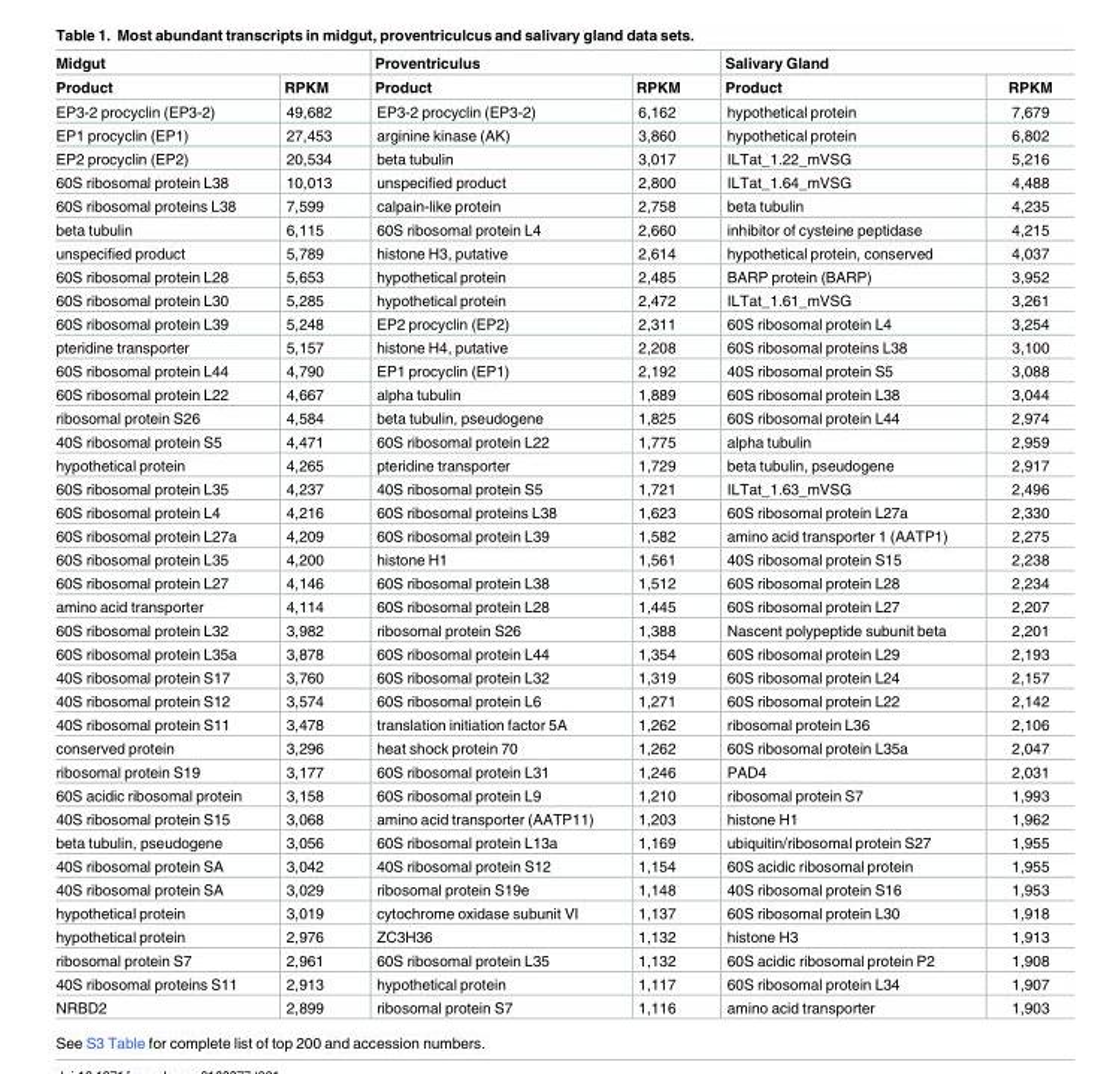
<table><thead><tr><td colspan="2">Midgut</td><td colspan="2">Proventriculus</td><td colspan="2">Salivary Gland</td></tr><tr><td>Product</td><td>RPKM</td><td>Product</td><td>RPKM</td><td>Product</td><td>RPKM</td></tr></thead><tbody><tr><td>EP3-2 procyclin (EP3-2)</td><td>49,682</td><td>EP3-2 procyclin (EP3-2)</td><td>6,162</td><td>hypothetical protein</td><td>7,679</td></tr><tr><td>EP1 procyclin (EP1)</td><td>27,453</td><td>arginine kinase (AK)</td><td>3,860</td><td>hypothetical protein</td><td>6,802</td></tr><tr><td>EP2 procyclin (EP2)</td><td>20,534</td><td>beta tubulin</td><td>3,017</td><td>ILTat_1.22_mVSG</td><td>5,216</td></tr><tr><td>60S ribosomal protein L38</td><td>10,013</td><td>unspecified product</td><td>2,800</td><td>ILTat_1.64_mVSG</td><td>4,488</td></tr><tr><td>60S ribosomal proteins L38</td><td>7,599</td><td>calpain-like protein</td><td>2,758</td><td>beta tubulin</td><td>4,235</td></tr><tr><td>beta tubulin</td><td>6,115</td><td>60S ribosomal protein L4</td><td>2,660</td><td>inhibitor of cysteine peptidase</td><td>4,215</td></tr><tr><td>unspecified product</td><td>5,789</td><td>histone H3, putative</td><td>2,614</td><td>hypothetical protein, conserved</td><td>4,037</td></tr><tr><td>60S ribosomal protein L28</td><td>5,653</td><td>hypothetical protein</td><td>2,485</td><td>BARP protein (BARP)</td><td>3,952</td></tr><tr><td>60S ribosomal protein L30</td><td>5,285</td><td>hypothetical protein</td><td>2,472</td><td>ILTat_1.61_mVSG</td><td>3,261</td></tr><tr><td>60S ribosomal protein L39</td><td>5,248</td><td>EP2 procyclin (EP2)</td><td>2,311</td><td>60S ribosomal protein L4</td><td>3,254</td></tr><tr><td>pteridine transporter</td><td>5,157</td><td>histone H4, putative</td><td>2,208</td><td>60S ribosomal proteins L38</td><td>3,100</td></tr><tr><td>60S ribosomal protein L44</td><td>4,790</td><td>EP1 procyclin (EP1)</td><td>2,192</td><td>40S ribosomal protein S5</td><td>3,088</td></tr><tr><td>60S ribosomal protein L22</td><td>4,667</td><td>alpha tubulin</td><td>1,889</td><td>60S ribosomal protein L38</td><td>3,044</td></tr><tr><td>ribosomal protein S26</td><td>4,584</td><td>beta tubulin, pseudogene</td><td>1,825</td><td>60S ribosomal protein L44</td><td>2,974</td></tr><tr><td>40S ribosomal protein S5</td><td>4,471</td><td>60S ribosomal protein L22</td><td>1,775</td><td>alpha tubulin</td><td>2,959</td></tr><tr><td>hypothetical protein</td><td>4,265</td><td>pteridine transporter</td><td>1,729</td><td>beta tubulin, pseudogene</td><td>2,917</td></tr><tr><td>60S ribosomal protein L35</td><td>4,237</td><td>40S ribosomal protein S5</td><td>1,721</td><td>ILTat_1.63_mVSG</td><td>2,496</td></tr><tr><td>60S ribosomal protein L4</td><td>4,216</td><td>60S ribosomal proteins L38</td><td>1,623</td><td>60S ribosomal protein L27a</td><td>2,330</td></tr><tr><td>60S ribosomal protein L27a</td><td>4,209</td><td>60S ribosomal protein L39</td><td>1,582</td><td>amino acid transporter 1 (AATP1)</td><td>2,275</td></tr><tr><td>60S ribosomal protein L35</td><td>4,200</td><td>histone H1</td><td>1,561</td><td>40S ribosomal protein S15</td><td>2,238</td></tr><tr><td>60S ribosomal protein L27</td><td>4,146</td><td>60S ribosomal protein L38</td><td>1,512</td><td>60S ribosomal protein L28</td><td>2,234</td></tr><tr><td>amino acid transporter</td><td>4,114</td><td>60S ribosomal protein L28</td><td>1,445</td><td>60S ribosomal protein L27</td><td>2,207</td></tr><tr><td>60S ribosomal protein L32</td><td>3,982</td><td>ribosomal protein S26</td><td>1,388</td><td>Nascent polypeptide subunit beta</td><td>2,201</td></tr><tr><td>60S ribosomal protein L35a</td><td>3,878</td><td>60S ribosomal protein L44</td><td>1,354</td><td>60S ribosomal protein L29</td><td>2,193</td></tr><tr><td>40S ribosomal protein S17</td><td>3,760</td><td>60S ribosomal protein L32</td><td>1,319</td><td>60S ribosomal protein L24</td><td>2,157</td></tr><tr><td>40S ribosomal protein S12</td><td>3,574</td><td>60S ribosomal protein L6</td><td>1,271</td><td>60S ribosomal protein L22</td><td>2,142</td></tr><tr><td>40S ribosomal protein S11</td><td>3,478</td><td>translation initiation factor 5A</td><td>1,262</td><td>ribosomal protein L36</td><td>2,106</td></tr><tr><td>conserved protein</td><td>3,296</td><td>heat shock protein 70</td><td>1,262</td><td>60S ribosomal protein L35a</td><td>2,047</td></tr><tr><td>ribosomal protein S19</td><td>3,177</td><td>60S ribosomal protein L31</td><td>1,246</td><td>PAD4</td><td>2,031</td></tr><tr><td>60S acidic ribosomal protein</td><td>3,158</td><td>60S ribosomal protein L9</td><td>1,210</td><td>ribosomal protein S7</td><td>1,993</td></tr><tr><td>40S ribosomal protein S15</td><td>3,068</td><td>amino acid transporter (AATP11)</td><td>1,203</td><td>histone H1</td><td>1,962</td></tr><tr><td>beta tubulin, pseudogene</td><td>3,056</td><td>60S ribosomal protein L13a</td><td>1,169</td><td>ubiquitin/ribosomal protein S27</td><td>1,955</td></tr><tr><td>40S ribosomal protein SA</td><td>3,042</td><td>40S ribosomal protein S12</td><td>1,154</td><td>60S acidic ribosomal protein</td><td>1,955</td></tr><tr><td>40S ribosomal protein SA</td><td>3,029</td><td>ribosomal protein S19e</td><td>1,148</td><td>40S ribosomal protein S16</td><td>1,953</td></tr><tr><td>hypothetical protein</td><td>3,019</td><td>cytochrome oxidase subunit VI</td><td>1,137</td><td>60S ribosomal protein L30</td><td>1,918</td></tr><tr><td>hypothetical protein</td><td>2,976</td><td>ZC3H36</td><td>1,132</td><td>histone H3</td><td>1,913</td></tr><tr><td>ribosomal protein S7</td><td>2,961</td><td>60S ribosomal protein L35</td><td>1,132</td><td>60S acidic ribosomal protein P2</td><td>1,908</td></tr><tr><td>40S ribosomal proteins S11</td><td>2,913</td><td>hypothetical protein</td><td>1,117</td><td>60S ribosomal protein L34</td><td>1,907</td></tr><tr><td>NRBD2</td><td>2,899</td><td>ribosomal protein S7</td><td>1,116</td><td>amino acid transporter</td><td>1,903</td></tr></tbody></table>